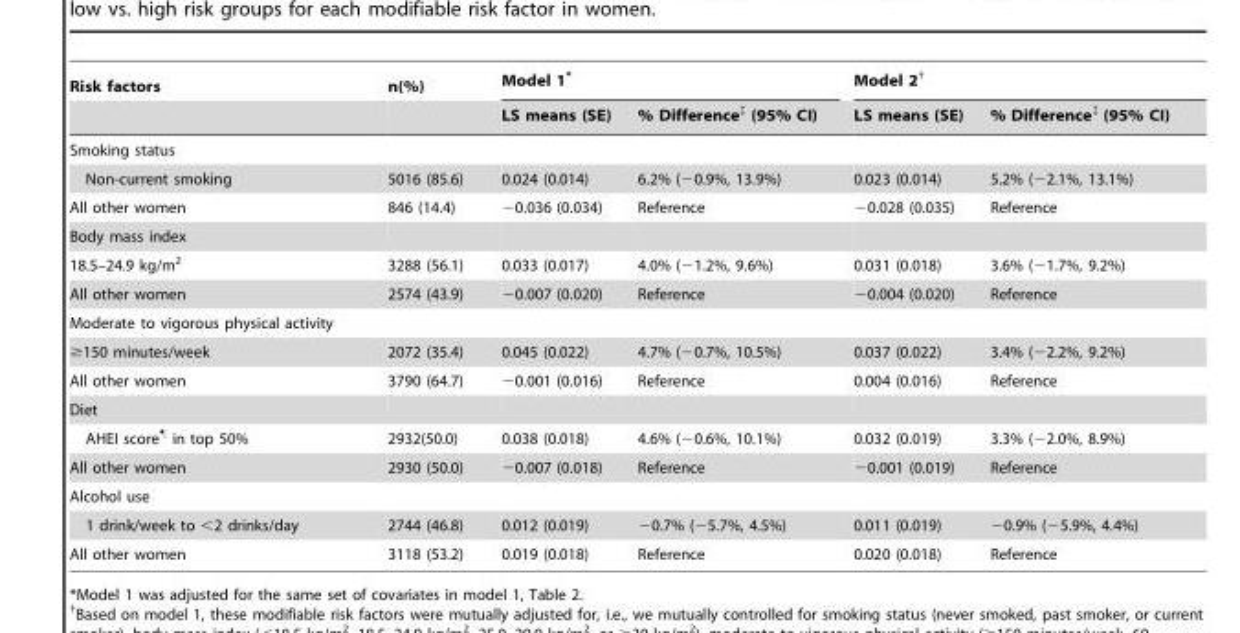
<table><thead><tr><td rowspan="2">Risk factors</td><td rowspan="2">n(%)</td><td colspan="2">Model 1*</td><td colspan="2">Model 2†</td></tr><tr><td>LS means (SE)</td><td>% Difference‡ (95% CI)</td><td>LS means (SE)</td><td>% Difference‡ (95% CI)</td></tr></thead><tbody><tr><td colspan="6">Smoking status</td></tr><tr><td>Non-current smoking</td><td>5016 (85.6)</td><td>0.024 (0.014)</td><td>6.2% (−0.9%, 13.9%)</td><td>0.023 (0.014)</td><td>5.2% (−2.1%, 13.1%)</td></tr><tr><td>All other women</td><td>846 (14.4)</td><td>−0.036 (0.034)</td><td>Reference</td><td>−0.028 (0.035)</td><td>Reference</td></tr><tr><td colspan="6">Body mass index</td></tr><tr><td>18.5–24.9 kg/m<sup>2</sup></td><td>3288 (56.1)</td><td>0.033 (0.017)</td><td>4.0% (−1.2%, 9.6%)</td><td>0.031 (0.018)</td><td>3.6% (−1.7%, 9.2%)</td></tr><tr><td>All other women</td><td>2574 (43.9)</td><td>−0.007 (0.020)</td><td>Reference</td><td>−0.004 (0.020)</td><td>Reference</td></tr><tr><td colspan="6">Moderate to vigorous physical activity</td></tr><tr><td>≥150 minutes/week</td><td>2072 (35.4)</td><td>0.045 (0.022)</td><td>4.7% (−0.7%, 10.5%)</td><td>0.037 (0.022)</td><td>3.4% (−2.2%, 9.2%)</td></tr><tr><td>All other women</td><td>3790 (64.7)</td><td>−0.001 (0.016)</td><td>Reference</td><td>0.004 (0.016)</td><td>Reference</td></tr><tr><td colspan="6">Diet</td></tr><tr><td>AHEI score¶ in top 50%</td><td>2932(50.0)</td><td>0.038 (0.018)</td><td>4.6% (−0.6%, 10.1%)</td><td>0.032 (0.019)</td><td>3.3% (−2.0%, 8.9%)</td></tr><tr><td>All other women</td><td>2930 (50.0)</td><td>−0.007 (0.018)</td><td>Reference</td><td>−0.001 (0.019)</td><td>Reference</td></tr><tr><td colspan="6">Alcohol use</td></tr><tr><td>1 drink/week to &lt;2 drinks/day</td><td>2744 (46.8)</td><td>0.012 (0.019)</td><td>−0.7% (−5.7%, 4.5%)</td><td>0.011 (0.019)</td><td>−0.9% (−5.9%, 4.4%)</td></tr><tr><td>All other women</td><td>3118 (53.2)</td><td>0.019 (0.018)</td><td>Reference</td><td>0.020 (0.018)</td><td>Reference</td></tr></tbody></table>